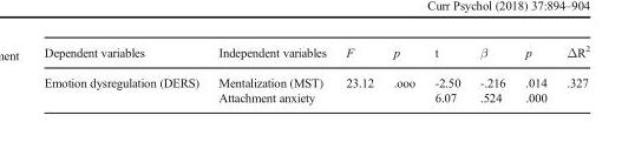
<table><thead><tr><td>Dependent variables</td><td>Independent variables</td><td>F</td><td>p</td><td>t</td><td>β</td><td>p</td><td>ΔR<sup>2</sup></td></tr></thead><tbody><tr><td rowspan="2">Emotion dysregulation (DERS)</td><td>Mentalization (MST)</td><td rowspan="2">23.12</td><td rowspan="2">.ooo</td><td>-2.50</td><td>-.216</td><td>.014</td><td rowspan="2">.327</td></tr><tr><td>Attachment anxiety</td><td>6.07</td><td>.524</td><td>.000</td></tr></tbody></table>